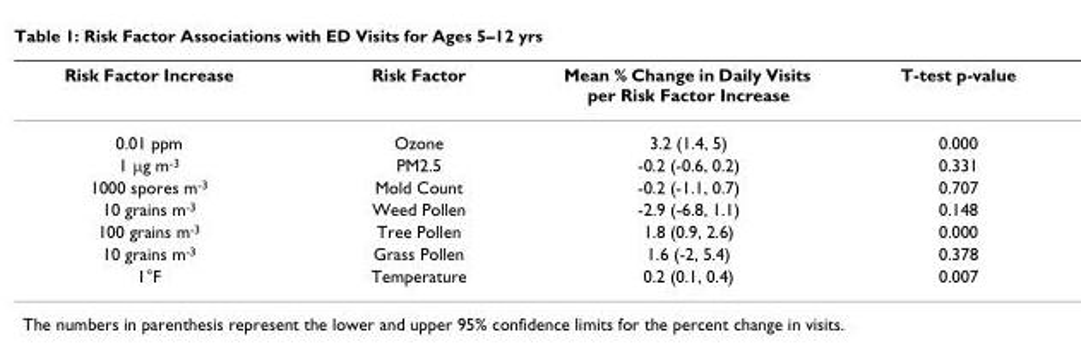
<table><thead><tr><td>Risk Factor Increase</td><td>Risk Factor</td><td>Mean % Change in Daily Visits per Risk Factor Increase</td><td>T-test p-value</td></tr></thead><tbody><tr><td>0.01 ppm</td><td>Ozone</td><td>3.2 (1.4, 5)</td><td>0.000</td></tr><tr><td>1 µg m<sup>-3</sup></td><td>PM2.5</td><td>-0.2 (-0.6, 0.2)</td><td>0.331</td></tr><tr><td>1000 spores m<sup>-3</sup></td><td>Mold Count</td><td>-0.2 (-1.1, 0.7)</td><td>0.707</td></tr><tr><td>10 grains m<sup>-3</sup></td><td>Weed Pollen</td><td>-2.9 (-6.8, 1.1)</td><td>0.148</td></tr><tr><td>100 grains m<sup>-3</sup></td><td>Tree Pollen</td><td>1.8 (0.9, 2.6)</td><td>0.000</td></tr><tr><td>10 grains m<sup>-3</sup></td><td>Grass Pollen</td><td>1.6 (-2, 5.4)</td><td>0.378</td></tr><tr><td>1°F</td><td>Temperature</td><td>0.2 (0.1, 0.4)</td><td>0.007</td></tr></tbody></table>